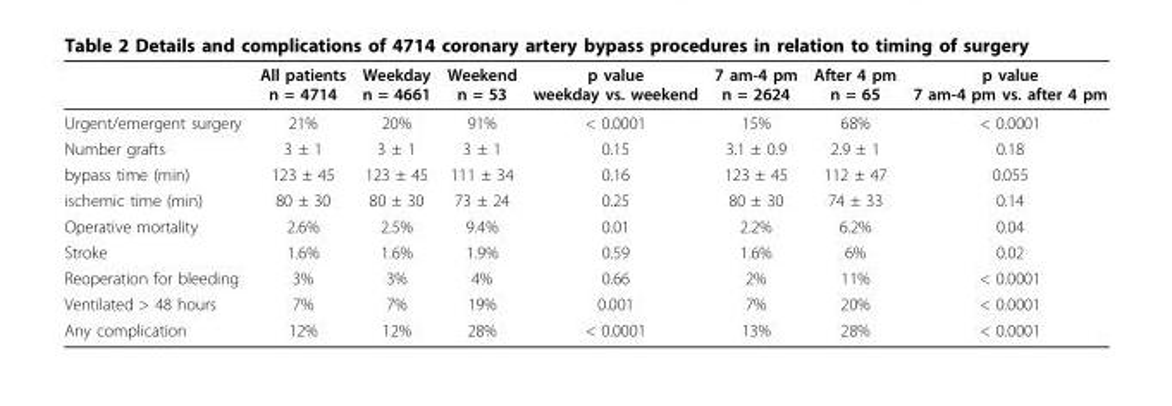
<table><thead><tr><td></td><td>All patients n = 4714</td><td>Weekday n = 4661</td><td>Weekend n = 53</td><td>p value weekday vs. weekend</td><td>7 am-4 pm n = 2624</td><td>After 4 pm n = 65</td><td>p value 7 am-4 pm vs. after 4 pm</td></tr></thead><tbody><tr><td>Urgent/emergent surgery</td><td>21%</td><td>20%</td><td>91%</td><td>&lt; 0.0001</td><td>15%</td><td>68%</td><td>&lt; 0.0001</td></tr><tr><td>Number grafts</td><td>3 ± 1</td><td>3 ± 1</td><td>3 ± 1</td><td>0.15</td><td>3.1 ± 0.9</td><td>2.9 ± 1</td><td>0.18</td></tr><tr><td>bypass time (min)</td><td>123 ± 45</td><td>123 ± 45</td><td>111 ± 34</td><td>0.16</td><td>123 ± 45</td><td>112 ± 47</td><td>0.055</td></tr><tr><td>ischemic time (min)</td><td>80 ± 30</td><td>80 ± 30</td><td>73 ± 24</td><td>0.25</td><td>80 ± 30</td><td>74 ± 33</td><td>0.14</td></tr><tr><td>Operative mortality</td><td>2.6%</td><td>2.5%</td><td>9.4%</td><td>0.01</td><td>2.2%</td><td>6.2%</td><td>0.04</td></tr><tr><td>Stroke</td><td>1.6%</td><td>1.6%</td><td>1.9%</td><td>0.59</td><td>1.6%</td><td>6%</td><td>0.02</td></tr><tr><td>Reoperation for bleeding</td><td>3%</td><td>3%</td><td>4%</td><td>0.66</td><td>2%</td><td>11%</td><td>&lt; 0.0001</td></tr><tr><td>Ventilated &gt; 48 hours</td><td>7%</td><td>7%</td><td>19%</td><td>0.001</td><td>7%</td><td>20%</td><td>&lt; 0.0001</td></tr><tr><td>Any complication</td><td>12%</td><td>12%</td><td>28%</td><td>&lt; 0.0001</td><td>13%</td><td>28%</td><td>&lt; 0.0001</td></tr></tbody></table>